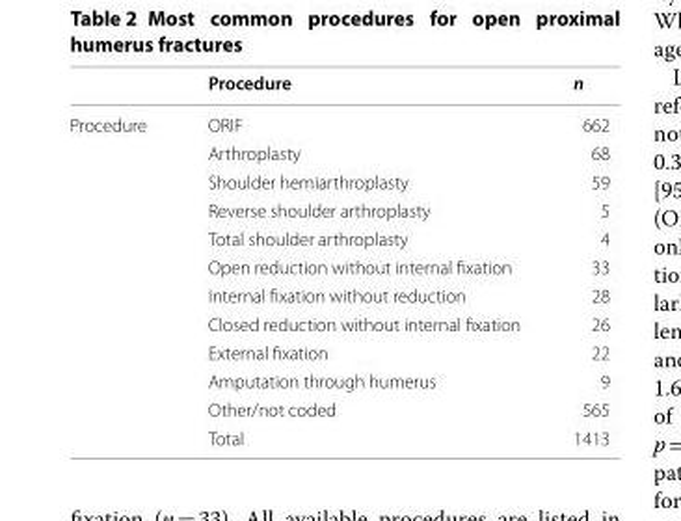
<table><thead><tr><td></td><td>Procedure</td><td>n</td></tr></thead><tbody><tr><td rowspan="12">Procedure</td><td>ORIF</td><td>662</td></tr><tr><td>Arthroplasty</td><td>68</td></tr><tr><td>Shoulder hemiarthroplasty</td><td>59</td></tr><tr><td>Reverse shoulder arthroplasty</td><td>5</td></tr><tr><td>Total shoulder arthroplasty</td><td>4</td></tr><tr><td>Open reduction without internal fixation</td><td>33</td></tr><tr><td>Internal fixation without reduction</td><td>28</td></tr><tr><td>Closed reduction without internal fixation</td><td>26</td></tr><tr><td>External fixation</td><td>22</td></tr><tr><td>Amputation through humerus</td><td>9</td></tr><tr><td>Other/not coded</td><td>565</td></tr><tr><td>Total</td><td>1413</td></tr></tbody></table>